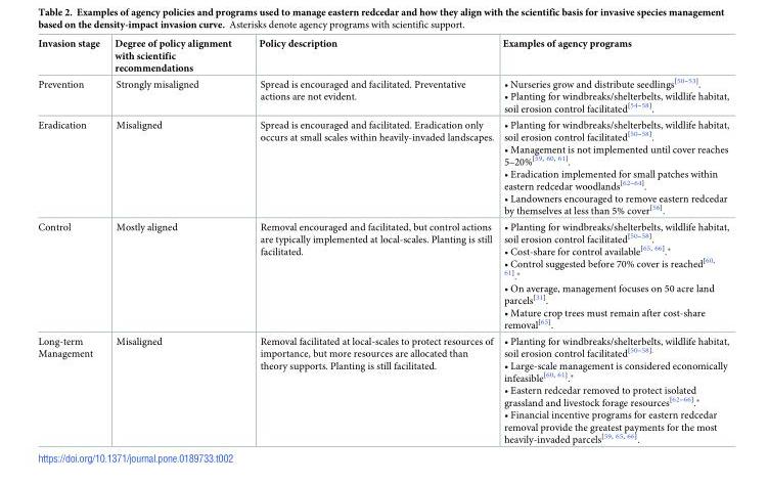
<table><thead><tr><td>Invasion stage</td><td>Degree of policy alignment with scientific recommendations</td><td>Policy description</td><td>Examples of agency programs</td></tr></thead><tbody><tr><td>Prevention</td><td>Strongly misaligned</td><td>Spread is encouraged and facilitated. Preventative actions are not evident.</td><td>• Nurseries grow and distribute seedlings<sup>[50–53]</sup>. • Planting for windbreaks/shelterbelts, wildlife habitat, soil erosion control facilitated<sup>[54–58]</sup>.</td></tr><tr><td>Eradication</td><td>Misaligned</td><td>Spread is encouraged and facilitated. Eradication only occurs at small scales within heavily-invaded landscapes.</td><td>• Planting for windbreaks/shelterbelts, wildlife habitat, soil erosion control facilitated<sup>[50–58]</sup>. • Management is not implemented until cover reaches 5–20%<sup>[59, 60, 61]</sup>. • Eradication implemented for small patches within eastern redcedar woodlands<sup>[62–64]</sup>. • Landowners encouraged to remove eastern redcedar by themselves at less than 5% cover<sup>[56]</sup>.</td></tr><tr><td>Control</td><td>Mostly aligned</td><td>Removal encouraged and facilitated, but control actions are typically implemented at local-scales. Planting is still facilitated.</td><td>• Planting for windbreaks/shelterbelts, wildlife habitat, soil erosion control facilitated<sup>[50–58]</sup>. • Cost-share for control available<sup>[65, 66]</sup>.* • Control suggested before 70% cover is reached<sup>[60, 61]</sup>.* • On average, management focuses on 50 acre land parcels<sup>[31]</sup>. • Mature crop trees must remain after cost-share removal<sup>[65]</sup>.</td></tr><tr><td>Long-term Management</td><td>Misaligned</td><td>Removal facilitated at local-scales to protect resources of importance, but more resources are allocated than theory supports. Planting is still facilitated.</td><td>• Planting for windbreaks/shelterbelts, wildlife habitat, soil erosion control facilitated<sup>[50–58].</sup> • Large-scale management is considered economically infeasible<sup>[60, 61]</sup>.* • Eastern redcedar removed to protect isolated grassland and livestock forage resources<sup>[62–66]</sup>.* • Financial incentive programs for eastern redcedar removal provide the greatest payments for the most heavily-invaded parcels<sup>[59, 65, 66]</sup>.</td></tr></tbody></table>